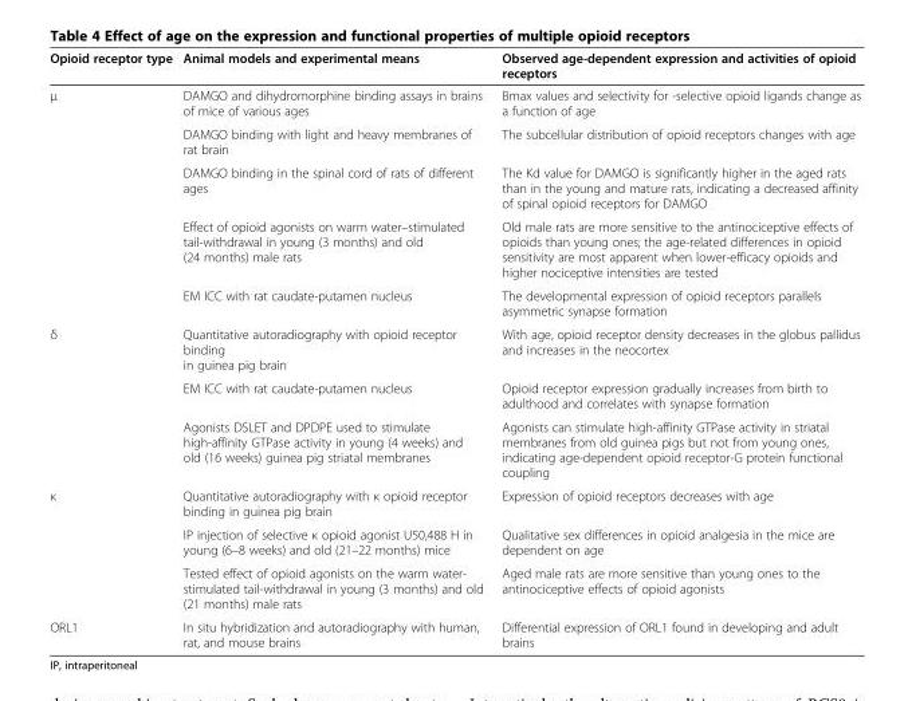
<table><thead><tr><td>Opioid receptor type</td><td>Animal models and experimental means</td><td>Observed age-dependent expression and activities of opioid receptors</td></tr></thead><tbody><tr><td rowspan="5">μ</td><td>DAMGO and dihydromorphine binding assays in brains of mice of various ages</td><td>Bmax values and selectivity for -selective opioid ligands change as a function of age</td></tr><tr><td>DAMGO binding with light and heavy membranes of rat brain</td><td>The subcellular distribution of opioid receptors changes with age</td></tr><tr><td>DAMGO binding in the spinal cord of rats of different ages</td><td>The Kd value for DAMGO is significantly higher in the aged rats than in the young and mature rats, indicating a decreased affinity of spinal opioid receptors for DAMGO</td></tr><tr><td>Effect of opioid agonists on warm water–stimulated tail-withdrawal in young (3 months) and old (24 months) male rats</td><td>Old male rats are more sensitive to the antinociceptive effects of opioids than young ones; the age-related differences in opioid sensitivity are most apparent when lower-efficacy opioids and higher nociceptive intensities are tested</td></tr><tr><td>EM ICC with rat caudate-putamen nucleus</td><td>The developmental expression of opioid receptors parallels asymmetric synapse formation</td></tr><tr><td rowspan="3">δ</td><td>Quantitative autoradiography with opioid receptor binding in guinea pig brain</td><td>With age, opioid receptor density decreases in the globus pallidus and increases in the neocortex</td></tr><tr><td>EM ICC with rat caudate-putamen nucleus</td><td>Opioid receptor expression gradually increases from birth to adulthood and correlates with synapse formation</td></tr><tr><td>Agonists DSLET and DPDPE used to stimulate high-affinity GTPase activity in young (4 weeks) and old (16 weeks) guinea pig striatal membranes</td><td>Agonists can stimulate high-affinity GTPase activity in striatal membranes from old guinea pigs but not from young ones, indicating age-dependent opioid receptor-G protein functional coupling</td></tr><tr><td rowspan="3">κ</td><td>Quantitative autoradiography with κ opioid receptor binding in guinea pig brain</td><td>Expression of opioid receptors decreases with age</td></tr><tr><td>IP injection of selective κ opioid agonist U50,488 H in young (6–8 weeks) and old (21–22 months) mice</td><td>Qualitative sex differences in opioid analgesia in the mice are dependent on age</td></tr><tr><td>Tested effect of opioid agonists on the warm water- stimulated tail-withdrawal in young (3 months) and old (21 months) male rats</td><td>Aged male rats are more sensitive than young ones to the antinociceptive effects of opioid agonists</td></tr><tr><td>ORL1</td><td>In situ hybridization and autoradiography with human, rat, and mouse brains</td><td>Differential expression of ORL1 found in developing and adult brains</td></tr></tbody></table>